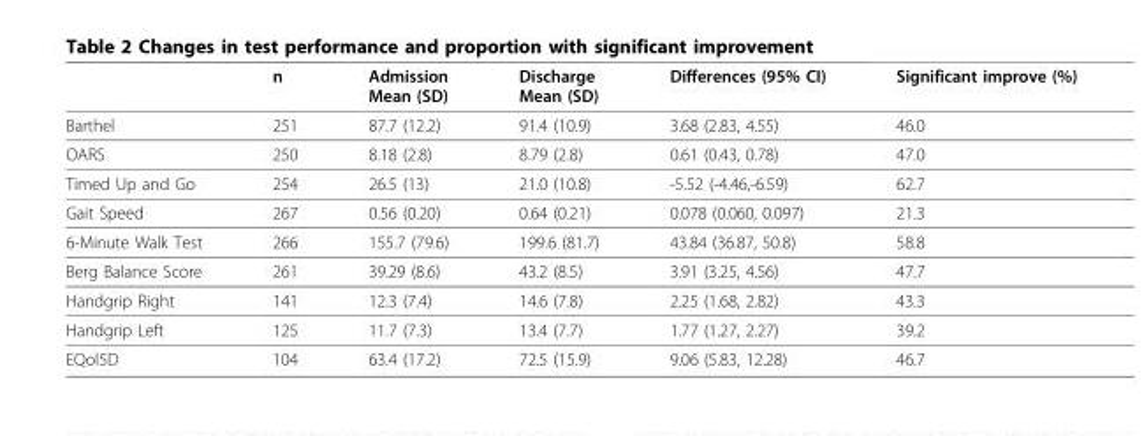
<table><thead><tr><td></td><td>n</td><td>Admission Mean (SD)</td><td>Discharge Mean (SD)</td><td>Differences (95% CI)</td><td>Significant improve (%)</td></tr></thead><tbody><tr><td>Barthel</td><td>251</td><td>87.7 (12.2)</td><td>91.4 (10.9)</td><td>3.68 (2.83, 4.55)</td><td>46.0</td></tr><tr><td>OARS</td><td>250</td><td>8.18 (2.8)</td><td>8.79 (2.8)</td><td>0.61 (0.43, 0.78)</td><td>47.0</td></tr><tr><td>Timed Up and Go</td><td>254</td><td>26.5 (13)</td><td>21.0 (10.8)</td><td>-5.52 (-4.46,-6.59)</td><td>62.7</td></tr><tr><td>Gait Speed</td><td>267</td><td>0.56 (0.20)</td><td>0.64 (0.21)</td><td>0.078 (0.060, 0.097)</td><td>21.3</td></tr><tr><td>6-Minute Walk Test</td><td>266</td><td>155.7 (79.6)</td><td>199.6 (81.7)</td><td>43.84 (36.87, 50.8)</td><td>58.8</td></tr><tr><td>Berg Balance Score</td><td>261</td><td>39.29 (8.6)</td><td>43.2 (8.5)</td><td>3.91 (3.25, 4.56)</td><td>47.7</td></tr><tr><td>Handgrip Right</td><td>141</td><td>12.3 (7.4)</td><td>14.6 (7.8)</td><td>2.25 (1.68, 2.82)</td><td>43.3</td></tr><tr><td>Handgrip Left</td><td>125</td><td>11.7 (7.3)</td><td>13.4 (7.7)</td><td>1.77 (1.27, 2.27)</td><td>39.2</td></tr><tr><td>EQol5D</td><td>104</td><td>63.4 (17.2)</td><td>72.5 (15.9)</td><td>9.06 (5.83, 12.28)</td><td>46.7</td></tr></tbody></table>